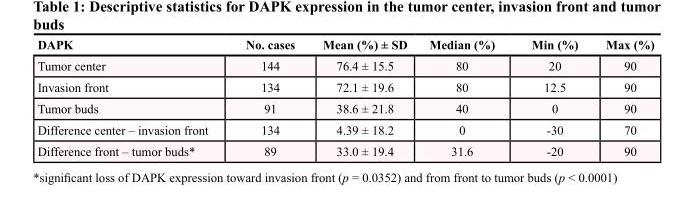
<table><thead><tr><td>DAPK</td><td>No. cases</td><td>Mean (%) ± SD</td><td>Median (%)</td><td>Min (%)</td><td>Max (%)</td></tr></thead><tbody><tr><td>Tumor center</td><td>144</td><td>76.4 ± 15.5</td><td>80</td><td>20</td><td>90</td></tr><tr><td>Invasion front</td><td>134</td><td>72.1 ± 19.6</td><td>80</td><td>12.5</td><td>90</td></tr><tr><td>Tumor buds</td><td>91</td><td>38.6 ± 21.8</td><td>40</td><td>0</td><td>90</td></tr><tr><td>Difference center – invasion front</td><td>134</td><td>4.39 ± 18.2</td><td>0</td><td>-30</td><td>70</td></tr><tr><td>Difference front – tumor buds*</td><td>89</td><td>33.0 ± 19.4</td><td>31.6</td><td>-20</td><td>90</td></tr></tbody></table>